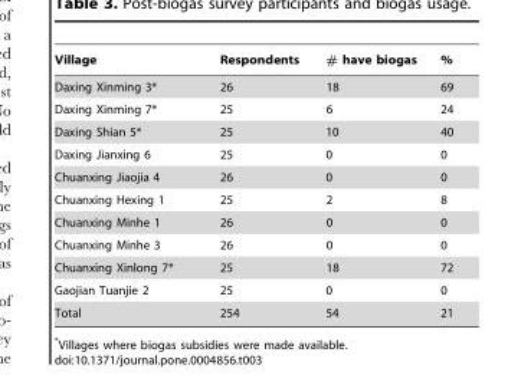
<table><thead><tr><td>Village</td><td>Respondents</td><td># have biogas</td><td>%</td></tr></thead><tbody><tr><td>Daxing Xinming 3*</td><td>26</td><td>18</td><td>69</td></tr><tr><td>Daxing Xinming 7*</td><td>25</td><td>6</td><td>24</td></tr><tr><td>Daxing Shian 5*</td><td>25</td><td>10</td><td>40</td></tr><tr><td>Daxing Jianxing 6</td><td>25</td><td>0</td><td>0</td></tr><tr><td>Chuanxing Jiaojia 4</td><td>26</td><td>0</td><td>0</td></tr><tr><td>Chuanxing Hexing 1</td><td>25</td><td>2</td><td>8</td></tr><tr><td>Chuanxing Minhe 1</td><td>26</td><td>0</td><td>0</td></tr><tr><td>Chuanxing Minhe 3</td><td>26</td><td>0</td><td>0</td></tr><tr><td>Chuanxing Xinlong 7*</td><td>25</td><td>18</td><td>72</td></tr><tr><td>Gaojian Tuanjie 2</td><td>25</td><td>0</td><td>0</td></tr><tr><td>Total</td><td>254</td><td>54</td><td>21</td></tr></tbody></table>